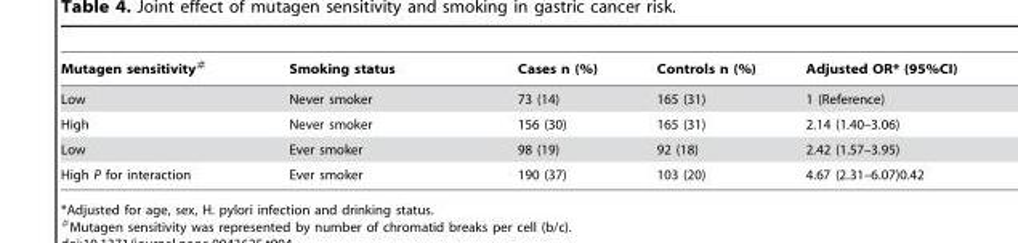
<table><thead><tr><td>Mutagen sensitivity#</td><td>Smoking status</td><td>Cases n (%)</td><td>Controls n (%)</td><td>Adjusted OR* (95%CI)</td></tr></thead><tbody><tr><td>Low</td><td>Never smoker</td><td>73 (14)</td><td>165 (31)</td><td>1 (Reference)</td></tr><tr><td>High</td><td>Never smoker</td><td>156 (30)</td><td>165 (31)</td><td>2.14 (1.40–3.06)</td></tr><tr><td>Low</td><td>Ever smoker</td><td>98 (19)</td><td>92 (18)</td><td>2.42 (1.57–3.95)</td></tr><tr><td>High P for interaction</td><td>Ever smoker</td><td>190 (37)</td><td>103 (20)</td><td>4.67 (2.31–6.07)0.42</td></tr></tbody></table>